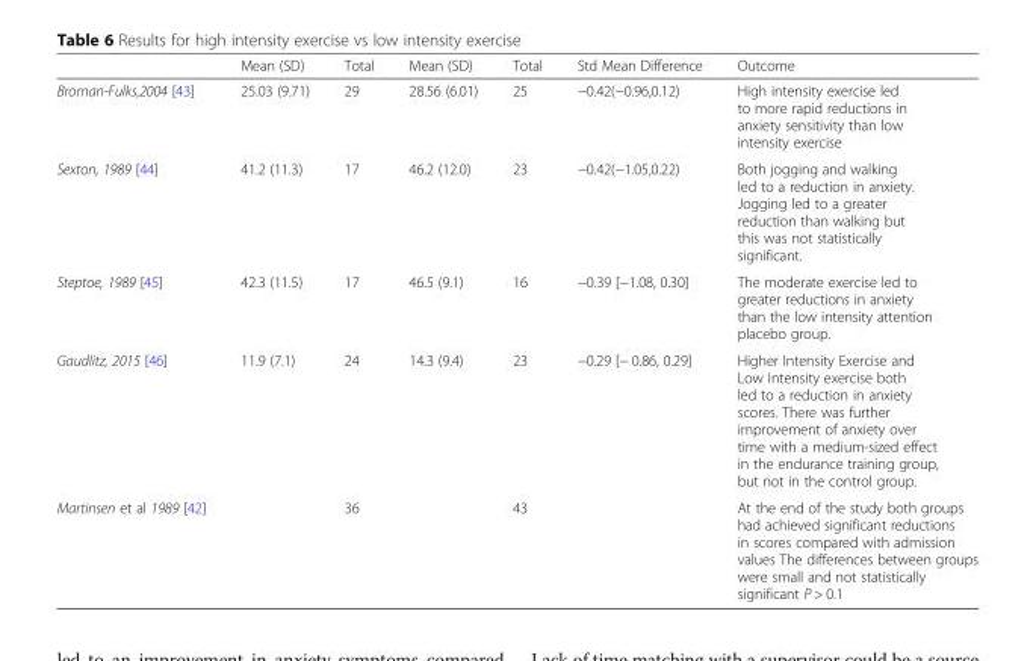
<table><thead><tr><td></td><td>Mean (SD)</td><td>Total</td><td>Mean (SD)</td><td>Total</td><td>Std Mean Difference</td><td>Outcome</td></tr></thead><tbody><tr><td>Broman-Fulks,2004 [43]</td><td>25.03 (9.71)</td><td>29</td><td>28.56 (6.01)</td><td>25</td><td>−0.42(−0.96,0.12)</td><td>High intensity exercise led to more rapid reductions in anxiety sensitivity than low intensity exercise</td></tr><tr><td>Sexton, 1989 [44]</td><td>41.2 (11.3)</td><td>17</td><td>46.2 (12.0)</td><td>23</td><td>−0.42(−1.05,0.22)</td><td>Both jogging and walking led to a reduction in anxiety. Jogging led to a greater reduction than walking but this was not statistically significant.</td></tr><tr><td>Steptoe, 1989 [45]</td><td>42.3 (11.5)</td><td>17</td><td>46.5 (9.1)</td><td>16</td><td>−0.39 [−1.08, 0.30]</td><td>The moderate exercise led to greater reductions in anxiety than the low intensity attention placebo group.</td></tr><tr><td>Gaudlitz, 2015 [46]</td><td>11.9 (7.1)</td><td>24</td><td>14.3 (9.4)</td><td>23</td><td>−0.29 [− 0.86, 0.29]</td><td>Higher Intensity Exercise and Low Intensity exercise both led to a reduction in anxiety scores. There was further improvement of anxiety over time with a medium-sized effect in the endurance training group, but not in the control group.</td></tr><tr><td>Martinsen et al 1989 [42]</td><td></td><td>36</td><td></td><td>43</td><td></td><td>At the end of the study both groups had achieved significant reductions in scores compared with admission values The differences between groups were small and not statistically significant P &gt; 0.1</td></tr></tbody></table>